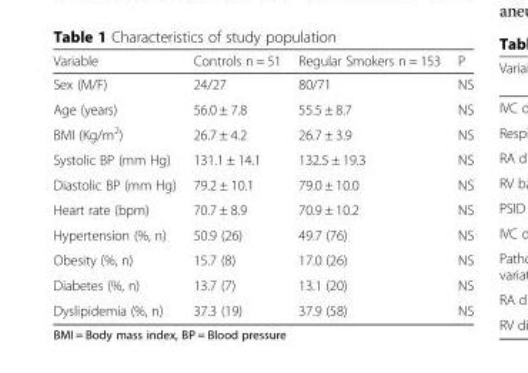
<table><thead><tr><td>Variable</td><td>Controls n = 51</td><td>Regular Smokers n = 153</td><td>P</td></tr></thead><tbody><tr><td>Sex (M/F)</td><td>24/27</td><td>80/71</td><td>NS</td></tr><tr><td>Age (years)</td><td>56.0 ± 7.8</td><td>55.5 ± 8.7</td><td>NS</td></tr><tr><td>BMI (Kg/m<sup>2</sup>)</td><td>26.7 ± 4.2</td><td>26.7 ± 3.9</td><td>NS</td></tr><tr><td>Systolic BP (mm Hg)</td><td>131.1 ± 14.1</td><td>132.5 ± 19.3</td><td>NS</td></tr><tr><td>Diastolic BP (mm Hg)</td><td>79.2 ± 10.1</td><td>79.0 ± 10.0</td><td>NS</td></tr><tr><td>Heart rate (bpm)</td><td>70.7 ± 8.9</td><td>70.9 ± 10.2</td><td>NS</td></tr><tr><td>Hypertension (%, n)</td><td>50.9 (26)</td><td>49.7 (76)</td><td>NS</td></tr><tr><td>Obesity (%, n)</td><td>15.7 (8)</td><td>17.0 (26)</td><td>NS</td></tr><tr><td>Diabetes (%, n)</td><td>13.7 (7)</td><td>13.1 (20)</td><td>NS</td></tr><tr><td>Dyslipidemia (%, n)</td><td>37.3 (19)</td><td>37.9 (58)</td><td>NS</td></tr></tbody></table>